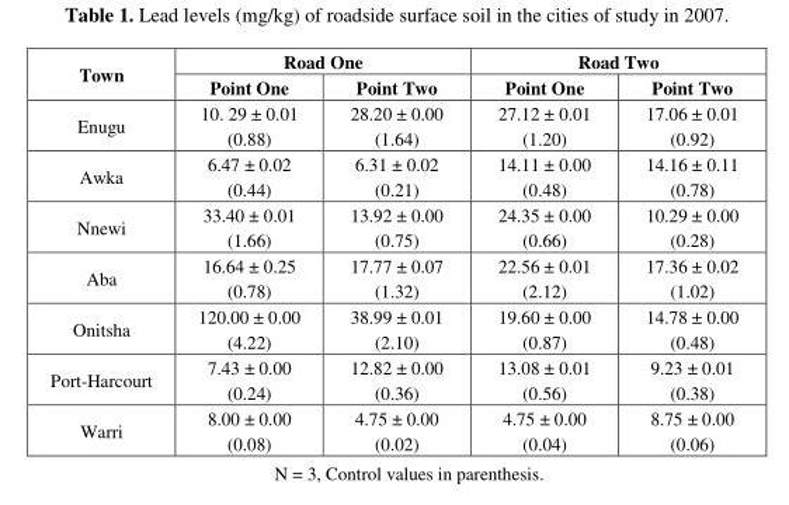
<table><thead><tr><td rowspan="2">Town</td><td colspan="2">Road One</td><td colspan="2">Road Two</td></tr><tr><td>Point One</td><td>Point Two</td><td>Point One</td><td>Point Two</td></tr></thead><tbody><tr><td>Enugu</td><td>10. 29 ± 0.01 (0.88)</td><td>28.20 ± 0.00 (1.64)</td><td>27.12 ± 0.01 (1.20)</td><td>17.06 ± 0.01 (0.92)</td></tr><tr><td>Awka</td><td>6.47 ± 0.02 (0.44)</td><td>6.31 ± 0.02 (0.21)</td><td>14.11 ± 0.00 (0.48)</td><td>14.16 ± 0.11 (0.78)</td></tr><tr><td>Nnewi</td><td>33.40 ± 0.01 (1.66)</td><td>13.92 ± 0.00 (0.75)</td><td>24.35 ± 0.00 (0.66)</td><td>10.29 ± 0.00 (0.28)</td></tr><tr><td>Aba</td><td>16.64 ± 0.25 (0.78)</td><td>17.77 ± 0.07 (1.32)</td><td>22.56 ± 0.01 (2.12)</td><td>17.36 ± 0.02 (1.02)</td></tr><tr><td>Onitsha</td><td>120.00 ± 0.00 (4.22)</td><td>38.99 ± 0.01 (2.10)</td><td>19.60 ± 0.00 (0.87)</td><td>14.78 ± 0.00 (0.48)</td></tr><tr><td>Port-Harcourt</td><td>7.43 ± 0.00 (0.24)</td><td>12.82 ± 0.00 (0.36)</td><td>13.08 ± 0.01 (0.56)</td><td>9.23 ± 0.01 (0.38)</td></tr><tr><td>Warri</td><td>8.00 ± 0.00 (0.08)</td><td>4.75 ± 0.00 (0.02)</td><td>4.75 ± 0.00 (0.04)</td><td>8.75 ± 0.00 (0.06)</td></tr></tbody></table>